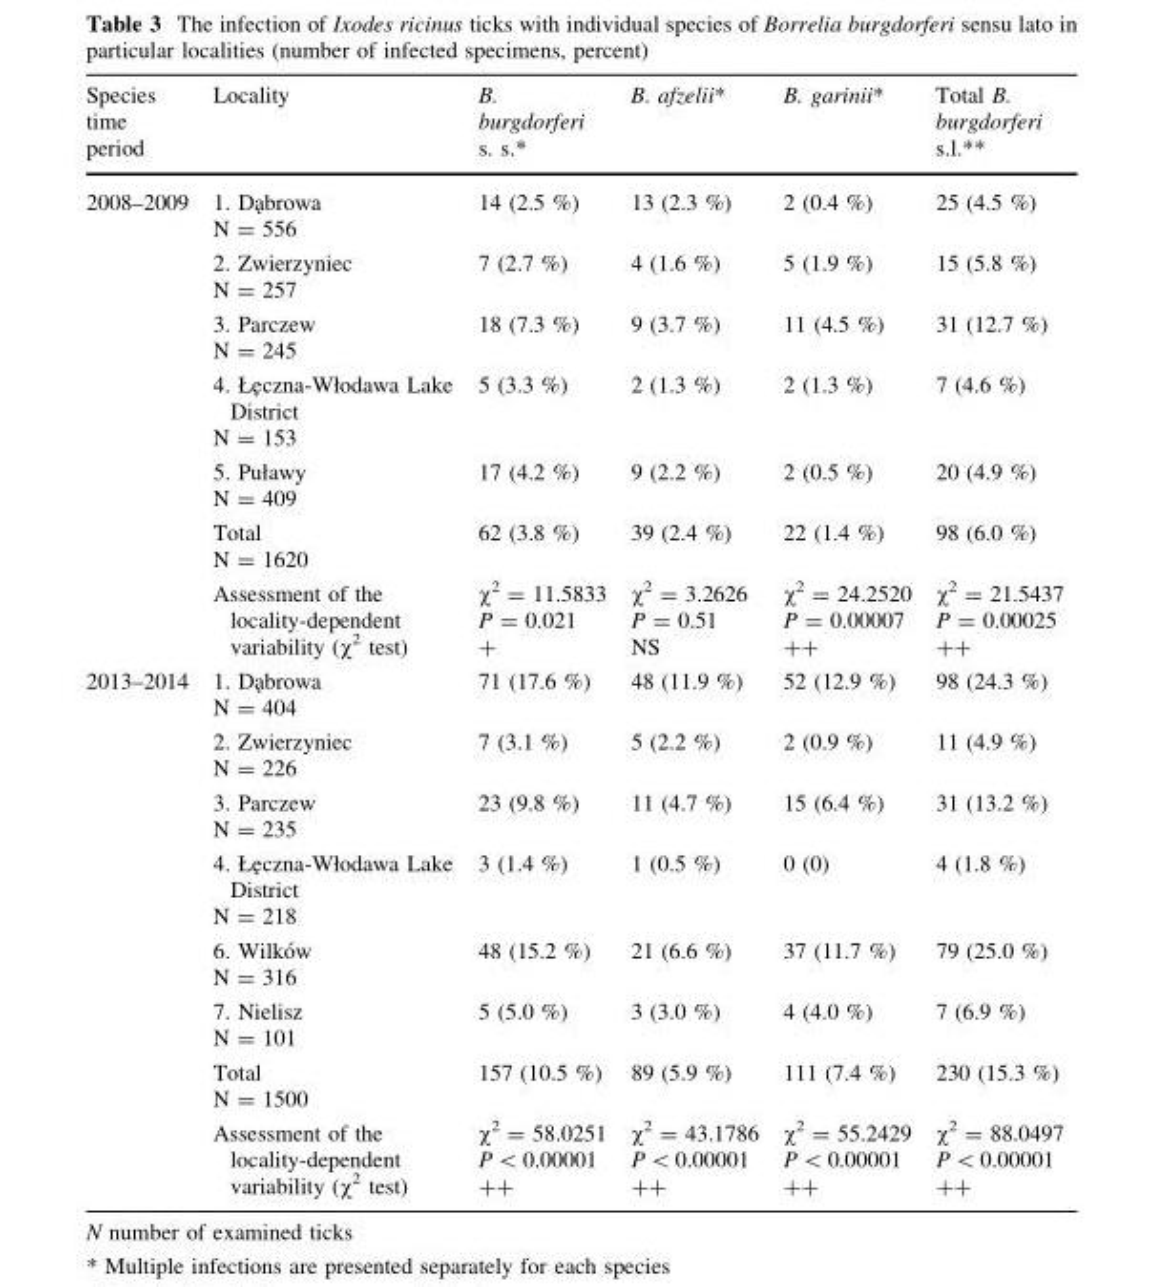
<table><thead><tr><td>Species time period</td><td>Locality</td><td>B. burgdorferi s. s.*</td><td>B. afzelii*</td><td>B. garinii*</td><td>Total B. burgdorferi s.l.**</td></tr></thead><tbody><tr><td rowspan="7">2008–2009</td><td>1. Da˛browa N = 556</td><td>14 (2.5 %)</td><td>13 (2.3 %)</td><td>2 (0.4 %)</td><td>25 (4.5 %)</td></tr><tr><td>2. Zwierzyniec N = 257</td><td>7 (2.7 %)</td><td>4 (1.6 %)</td><td>5 (1.9 %)</td><td>15 (5.8 %)</td></tr><tr><td>3. Parczew N = 245</td><td>18 (7.3 %)</td><td>9 (3.7 %)</td><td>11 (4.5 %)</td><td>31 (12.7 %)</td></tr><tr><td>4. Łe˛czna-Włodawa Lake District N = 153</td><td>5 (3.3 %)</td><td>2 (1.3 %)</td><td>2 (1.3 %)</td><td>7 (4.6 %)</td></tr><tr><td>5. Puławy N = 409</td><td>17 (4.2 %)</td><td>9 (2.2 %)</td><td>2 (0.5 %)</td><td>20 (4.9 %)</td></tr><tr><td>Total N = 1620</td><td>62 (3.8 %)</td><td>39 (2.4 %)</td><td>22 (1.4 %)</td><td>98 (6.0 %)</td></tr><tr><td>Assessment of the locality-dependent variability (χ<sup>2</sup> test)</td><td>χ<sup>2</sup> = 11.5833 P = 0.021 +</td><td>χ<sup>2</sup> = 3.2626 P = 0.51 NS</td><td>χ<sup>2</sup> = 24.2520 P = 0.00007 ++</td><td>χ<sup>2</sup> = 21.5437 P = 0.00025 ++</td></tr><tr><td rowspan="8">2013–2014</td><td>1. Da˛browa N = 404</td><td>71 (17.6 %)</td><td>48 (11.9 %)</td><td>52 (12.9 %)</td><td>98 (24.3 %)</td></tr><tr><td>2. Zwierzyniec N = 226</td><td>7 (3.1 %)</td><td>5 (2.2 %)</td><td>2 (0.9 %)</td><td>11 (4.9 %)</td></tr><tr><td>3. Parczew N = 235</td><td>23 (9.8 %)</td><td>11 (4.7 %)</td><td>15 (6.4 %)</td><td>31 (13.2 %)</td></tr><tr><td>4. Łe˛czna-Włodawa Lake District N = 218</td><td>3 (1.4 %)</td><td>1 (0.5 %)</td><td>0 (0)</td><td>4 (1.8 %)</td></tr><tr><td>6. Wilko´w N = 316</td><td>48 (15.2 %)</td><td>21 (6.6 %)</td><td>37 (11.7 %)</td><td>79 (25.0 %)</td></tr><tr><td>7. Nielisz N = 101</td><td>5 (5.0 %)</td><td>3 (3.0 %)</td><td>4 (4.0 %)</td><td>7 (6.9 %)</td></tr><tr><td>Total N = 1500</td><td>157 (10.5 %)</td><td>89 (5.9 %)</td><td>111 (7.4 %)</td><td>230 (15.3 %)</td></tr><tr><td>Assessment of the locality-dependent variability (χ<sup>2</sup> test)</td><td>χ<sup>2</sup> = 58.0251 P &lt; 0.00001 ++</td><td>χ<sup>2</sup> = 43.1786 P &lt; 0.00001 ++</td><td>χ<sup>2</sup> = 55.2429 P &lt; 0.00001 ++</td><td>χ<sup>2</sup> = 88.0497 P &lt; 0.00001 ++</td></tr></tbody></table>